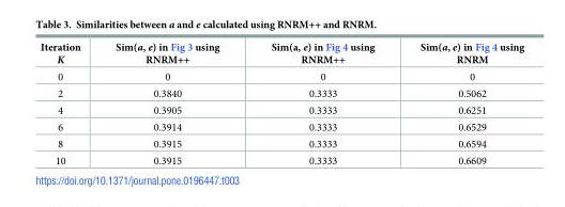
<table><thead><tr><td>Iteration K</td><td>Sim(a, e) in Fig 3 using RNRM++</td><td>Sim(a, e) in Fig 4 using RNRM++</td><td>Sim(a, e) in Fig 4 using RNRM</td></tr></thead><tbody><tr><td>0</td><td>0</td><td>0</td><td>0</td></tr><tr><td>2</td><td>0.3840</td><td>0.3333</td><td>0.5062</td></tr><tr><td>4</td><td>0.3905</td><td>0.3333</td><td>0.6251</td></tr><tr><td>6</td><td>0.3914</td><td>0.3333</td><td>0.6529</td></tr><tr><td>8</td><td>0.3915</td><td>0.3333</td><td>0.6594</td></tr><tr><td>10</td><td>0.3915</td><td>0.3333</td><td>0.6609</td></tr></tbody></table>